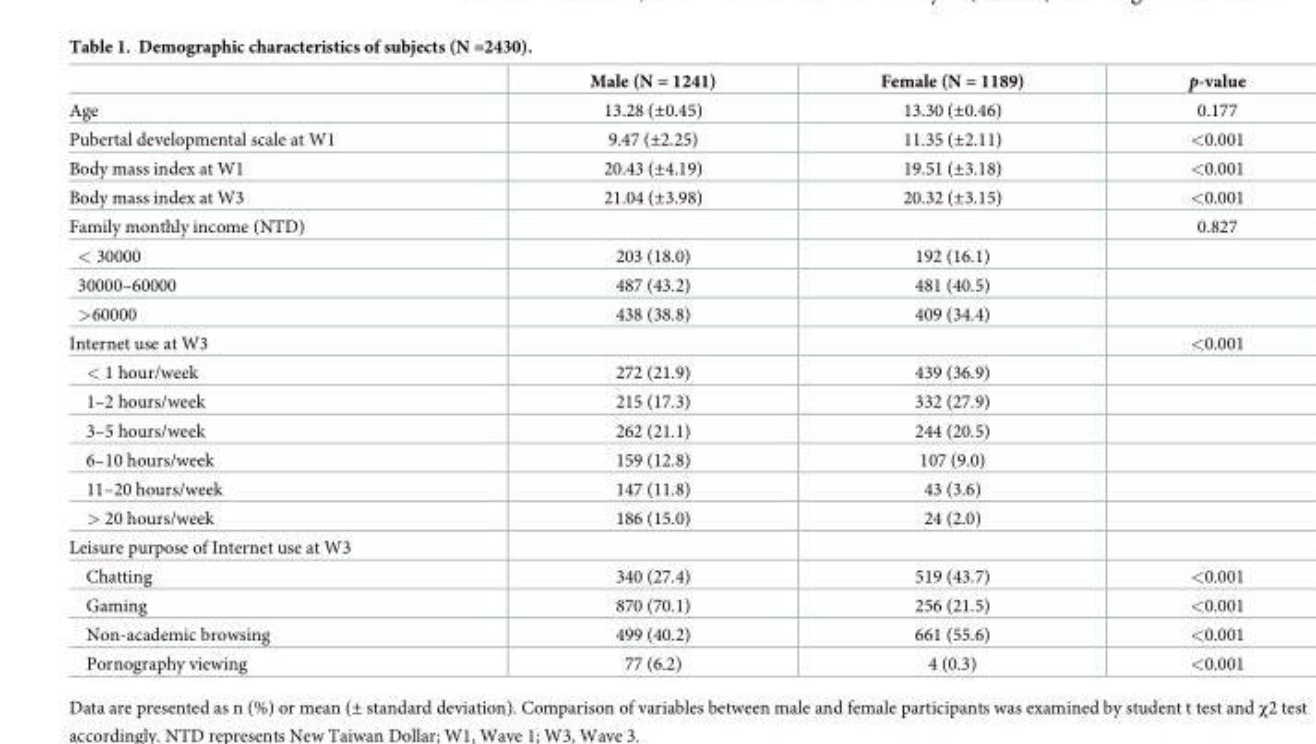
<table><thead><tr><td></td><td>Male (N = 1241)</td><td>Female (N = 1189)</td><td>p-value</td></tr></thead><tbody><tr><td>Age</td><td>13.28 (±0.45)</td><td>13.30 (±0.46)</td><td>0.177</td></tr><tr><td>Pubertal developmental scale at W1</td><td>9.47 (±2.25)</td><td>11.35 (±2.11)</td><td>&lt;0.001</td></tr><tr><td>Body mass index at W1</td><td>20.43 (±4.19)</td><td>19.51 (±3.18)</td><td>&lt;0.001</td></tr><tr><td>Body mass index at W3</td><td>21.04 (±3.98)</td><td>20.32 (±3.15)</td><td>&lt;0.001</td></tr><tr><td>Family monthly income (NTD)</td><td></td><td></td><td>0.827</td></tr><tr><td>&lt; 30000</td><td>203 (18.0)</td><td>192 (16.1)</td><td></td></tr><tr><td>30000–60000</td><td>487 (43.2)</td><td>481 (40.5)</td><td></td></tr><tr><td>&gt;60000</td><td>438 (38.8)</td><td>409 (34.4)</td><td></td></tr><tr><td>Internet use at W3</td><td></td><td></td><td>&lt;0.001</td></tr><tr><td>&lt; 1 hour/week</td><td>272 (21.9)</td><td>439 (36.9)</td><td></td></tr><tr><td>1–2 hours/week</td><td>215 (17.3)</td><td>332 (27.9)</td><td></td></tr><tr><td>3–5 hours/week</td><td>262 (21.1)</td><td>244 (20.5)</td><td></td></tr><tr><td>6–10 hours/week</td><td>159 (12.8)</td><td>107 (9.0)</td><td></td></tr><tr><td>11–20 hours/week</td><td>147 (11.8)</td><td>43 (3.6)</td><td></td></tr><tr><td>&gt; 20 hours/week</td><td>186 (15.0)</td><td>24 (2.0)</td><td></td></tr><tr><td colspan="4">Leisure purpose of Internet use at W3</td></tr><tr><td>Chatting</td><td>340 (27.4)</td><td>519 (43.7)</td><td>&lt;0.001</td></tr><tr><td>Gaming</td><td>870 (70.1)</td><td>256 (21.5)</td><td>&lt;0.001</td></tr><tr><td>Non-academic browsing</td><td>499 (40.2)</td><td>661 (55.6)</td><td>&lt;0.001</td></tr><tr><td>Pornography viewing</td><td>77 (6.2)</td><td>4 (0.3)</td><td>&lt;0.001</td></tr></tbody></table>